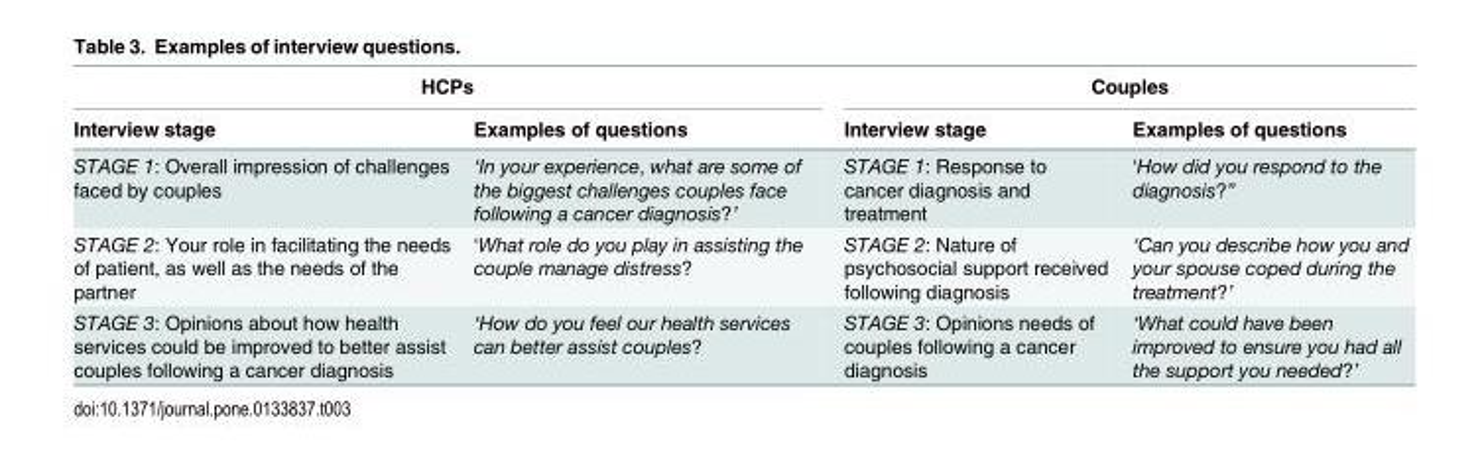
<table><thead><tr><td colspan="2">HCPs</td><td colspan="2">Couples</td></tr><tr><td>Interview stage</td><td>Examples of questions</td><td>Interview stage</td><td>Examples of questions</td></tr></thead><tbody><tr><td>STAGE 1: Overall impression of challenges faced by couples</td><td>‘In your experience, what are some of the biggest challenges couples face following a cancer diagnosis?’</td><td>STAGE 1: Response to cancer diagnosis and treatment</td><td>‘How did you respond to the diagnosis?”</td></tr><tr><td>STAGE 2: Your role in facilitating the needs of patient, as well as the needs of the partner</td><td>‘What role do you play in assisting the couple manage distress?</td><td>STAGE 2: Nature of psychosocial support received following diagnosis</td><td>‘Can you describe how you and your spouse coped during the treatment?’</td></tr><tr><td>STAGE 3: Opinions about how health services could be improved to better assist couples following a cancer diagnosis</td><td>‘How do you feel our health services can better assist couples?</td><td>STAGE 3: Opinions needs of couples following a cancer diagnosis</td><td>‘What could have been improved to ensure you had all the support you needed?’</td></tr></tbody></table>